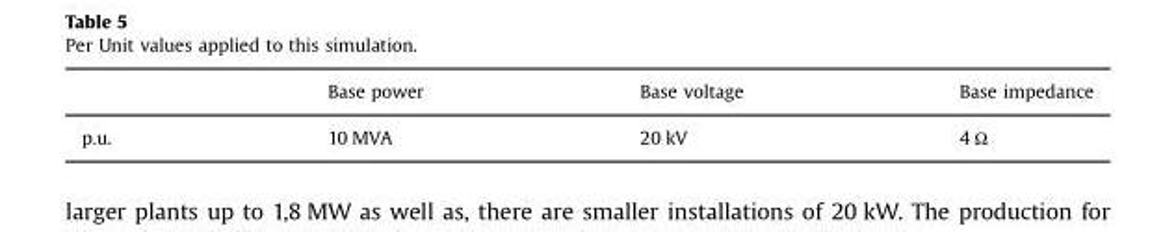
<table><thead><tr><td></td><td>Base power</td><td>Base voltage</td><td>Base impedance</td></tr></thead><tbody><tr><td>p.u.</td><td>10 MVA</td><td>20 kV</td><td>4 Ω</td></tr></tbody></table>